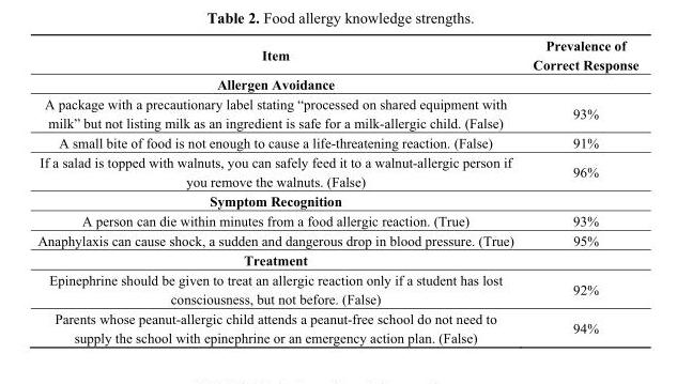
<table><thead><tr><td>Item</td><td>Prevalence of Correct Response</td></tr></thead><tbody><tr><td colspan="2">Allergen Avoidance</td></tr><tr><td>A package with a precautionary label stating “processed on shared equipment with milk” but not listing milk as an ingredient is safe for a milk-allergic child. (False)</td><td>93%</td></tr><tr><td>A small bite of food is not enough to cause a life-threatening reaction. (False)</td><td>91%</td></tr><tr><td>If a salad is topped with walnuts, you can safely feed it to a walnut-allergic person if you remove the walnuts. (False)</td><td>96%</td></tr><tr><td colspan="2">Symptom Recognition</td></tr><tr><td>A person can die within minutes from a food allergic reaction. (True)</td><td>93%</td></tr><tr><td>Anaphylaxis can cause shock, a sudden and dangerous drop in blood pressure. (True)</td><td>95%</td></tr><tr><td colspan="2">Treatment</td></tr><tr><td>Epinephrine should be given to treat an allergic reaction only if a student has lost consciousness, but not before. (False)</td><td>92%</td></tr><tr><td>Parents whose peanut-allergic child attends a peanut-free school do not need to supply the school with epinephrine or an emergency action plan. (False)</td><td>94%</td></tr></tbody></table>